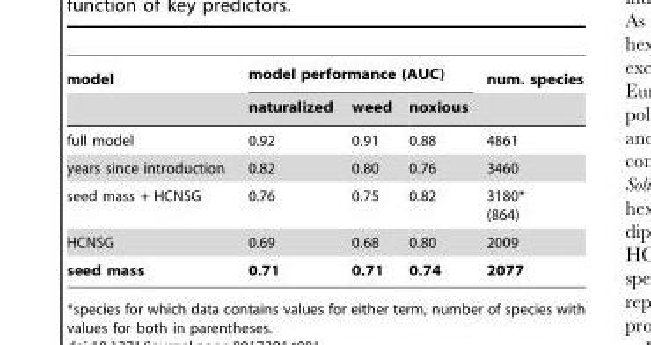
<table><thead><tr><td rowspan="2">model</td><td colspan="3">model performance (AUC)</td><td rowspan="2">num. species</td></tr><tr><td>naturalized</td><td>weed</td><td>noxious</td></tr></thead><tbody><tr><td>full model</td><td>0.92</td><td>0.91</td><td>0.88</td><td>4861</td></tr><tr><td>years since introduction</td><td>0.82</td><td>0.80</td><td>0.76</td><td>3460</td></tr><tr><td>seed mass + HCNSG</td><td>0.76</td><td>0.75</td><td>0.82</td><td>3180* (864)</td></tr><tr><td>HCNSG</td><td>0.69</td><td>0.68</td><td>0.80</td><td>2009</td></tr><tr><td>seed mass</td><td>0.71</td><td>0.71</td><td>0.74</td><td>2077</td></tr></tbody></table>